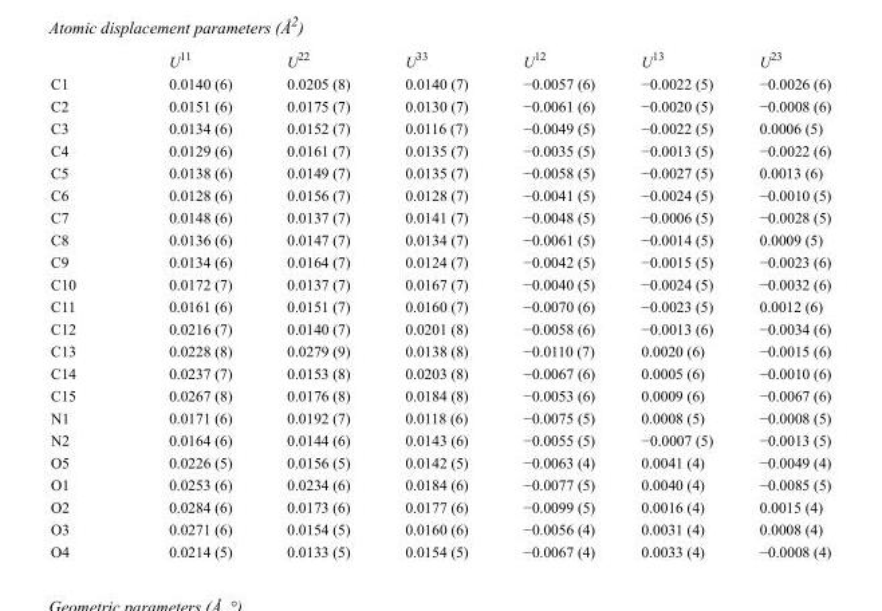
<table><thead><tr><td></td><td>U<sup>11</sup></td><td>U<sup>22</sup></td><td>U<sup>33</sup></td><td>U<sup>12</sup></td><td>U<sup>13</sup></td><td>U<sup>23</sup></td></tr></thead><tbody><tr><td>C1</td><td>0.0140 (6)</td><td>0.0205 (8)</td><td>0.0140 (7)</td><td>−0.0057 (6)</td><td>−0.0022 (5)</td><td>−0.0026 (6)</td></tr><tr><td>C2</td><td>0.0151 (6)</td><td>0.0175 (7)</td><td>0.0130 (7)</td><td>−0.0061 (6)</td><td>−0.0020 (5)</td><td>−0.0008 (6)</td></tr><tr><td>C3</td><td>0.0134 (6)</td><td>0.0152 (7)</td><td>0.0116 (7)</td><td>−0.0049 (5)</td><td>−0.0022 (5)</td><td>0.0006 (5)</td></tr><tr><td>C4</td><td>0.0129 (6)</td><td>0.0161 (7)</td><td>0.0135 (7)</td><td>−0.0035 (5)</td><td>−0.0013 (5)</td><td>−0.0022 (6)</td></tr><tr><td>C5</td><td>0.0138 (6)</td><td>0.0149 (7)</td><td>0.0135 (7)</td><td>−0.0058 (5)</td><td>−0.0027 (5)</td><td>0.0013 (6)</td></tr><tr><td>C6</td><td>0.0128 (6)</td><td>0.0156 (7)</td><td>0.0128 (7)</td><td>−0.0041 (5)</td><td>−0.0024 (5)</td><td>−0.0010 (5)</td></tr><tr><td>C7</td><td>0.0148 (6)</td><td>0.0137 (7)</td><td>0.0141 (7)</td><td>−0.0048 (5)</td><td>−0.0006 (5)</td><td>−0.0028 (5)</td></tr><tr><td>C8</td><td>0.0136 (6)</td><td>0.0147 (7)</td><td>0.0134 (7)</td><td>−0.0061 (5)</td><td>−0.0014 (5)</td><td>0.0009 (5)</td></tr><tr><td>C9</td><td>0.0134 (6)</td><td>0.0164 (7)</td><td>0.0124 (7)</td><td>−0.0042 (5)</td><td>−0.0015 (5)</td><td>−0.0023 (6)</td></tr><tr><td>C10</td><td>0.0172 (7)</td><td>0.0137 (7)</td><td>0.0167 (7)</td><td>−0.0040 (5)</td><td>−0.0024 (5)</td><td>−0.0032 (6)</td></tr><tr><td>C11</td><td>0.0161 (6)</td><td>0.0151 (7)</td><td>0.0160 (7)</td><td>−0.0070 (6)</td><td>−0.0023 (5)</td><td>0.0012 (6)</td></tr><tr><td>C12</td><td>0.0216 (7)</td><td>0.0140 (7)</td><td>0.0201 (8)</td><td>−0.0058 (6)</td><td>−0.0013 (6)</td><td>−0.0034 (6)</td></tr><tr><td>C13</td><td>0.0228 (8)</td><td>0.0279 (9)</td><td>0.0138 (8)</td><td>−0.0110 (7)</td><td>0.0020 (6)</td><td>−0.0015 (6)</td></tr><tr><td>C14</td><td>0.0237 (7)</td><td>0.0153 (8)</td><td>0.0203 (8)</td><td>−0.0067 (6)</td><td>0.0005 (6)</td><td>−0.0010 (6)</td></tr><tr><td>C15</td><td>0.0267 (8)</td><td>0.0176 (8)</td><td>0.0184 (8)</td><td>−0.0053 (6)</td><td>0.0009 (6)</td><td>−0.0067 (6)</td></tr><tr><td>N1</td><td>0.0171 (6)</td><td>0.0192 (7)</td><td>0.0118 (6)</td><td>−0.0075 (5)</td><td>0.0008 (5)</td><td>−0.0008 (5)</td></tr><tr><td>N2</td><td>0.0164 (6)</td><td>0.0144 (6)</td><td>0.0143 (6)</td><td>−0.0055 (5)</td><td>−0.0007 (5)</td><td>−0.0013 (5)</td></tr><tr><td>O5</td><td>0.0226 (5)</td><td>0.0156 (5)</td><td>0.0142 (5)</td><td>−0.0063 (4)</td><td>0.0041 (4)</td><td>−0.0049 (4)</td></tr><tr><td>O1</td><td>0.0253 (6)</td><td>0.0234 (6)</td><td>0.0184 (6)</td><td>−0.0077 (5)</td><td>0.0040 (4)</td><td>−0.0085 (5)</td></tr><tr><td>O2</td><td>0.0284 (6)</td><td>0.0173 (6)</td><td>0.0177 (6)</td><td>−0.0099 (5)</td><td>0.0016 (4)</td><td>0.0015 (4)</td></tr><tr><td>O3</td><td>0.0271 (6)</td><td>0.0154 (5)</td><td>0.0160 (6)</td><td>−0.0056 (4)</td><td>0.0031 (4)</td><td>0.0008 (4)</td></tr><tr><td>O4</td><td>0.0214 (5)</td><td>0.0133 (5)</td><td>0.0154 (5)</td><td>−0.0067 (4)</td><td>0.0033 (4)</td><td>−0.0008 (4)</td></tr></tbody></table>